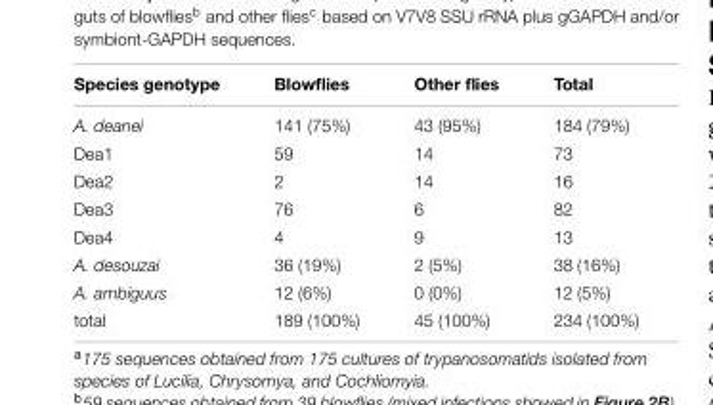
<table><thead><tr><td>Species genotype</td><td>Blowflies</td><td>Other flies</td><td>Total</td></tr></thead><tbody><tr><td>A. deanei</td><td>141 (75%)</td><td>43 (95%)</td><td>184 (79%)</td></tr><tr><td>Dea1</td><td>59</td><td>14</td><td>73</td></tr><tr><td>Dea2</td><td>2</td><td>14</td><td>16</td></tr><tr><td>Dea3</td><td>76</td><td>6</td><td>82</td></tr><tr><td>Dea4</td><td>4</td><td>9</td><td>13</td></tr><tr><td>A. desouzai</td><td>36 (19%)</td><td>2 (5%)</td><td>38 (16%)</td></tr><tr><td>A. ambiguus</td><td>12 (6%)</td><td>0 (0%)</td><td>12 (5%)</td></tr><tr><td>total</td><td>189 (100%)</td><td>45 (100%)</td><td>234 (100%)</td></tr></tbody></table>